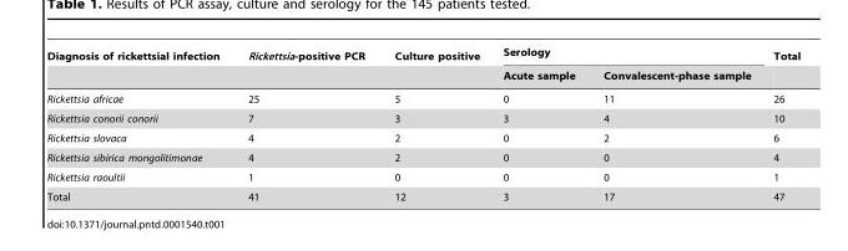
<table><thead><tr><td rowspan="2">Diagnosis of rickettsial infection</td><td rowspan="2">Rickettsia-positive PCR</td><td rowspan="2">Culture positive</td><td colspan="2">Serology</td><td rowspan="2">Total</td></tr><tr><td>Acute sample</td><td>Convalescent-phase sample</td></tr></thead><tbody><tr><td>Rickettsia africae</td><td>25</td><td>5</td><td>0</td><td>11</td><td>26</td></tr><tr><td>Rickettsia conorii conorii</td><td>7</td><td>3</td><td>3</td><td>4</td><td>10</td></tr><tr><td>Rickettsia slovaca</td><td>4</td><td>2</td><td>0</td><td>2</td><td>6</td></tr><tr><td>Rickettsia sibirica mongolitimonae</td><td>4</td><td>2</td><td>0</td><td>0</td><td>4</td></tr><tr><td>Rickettsia raoultii</td><td>1</td><td>0</td><td>0</td><td>0</td><td>1</td></tr><tr><td>Total</td><td>41</td><td>12</td><td>3</td><td>17</td><td>47</td></tr></tbody></table>